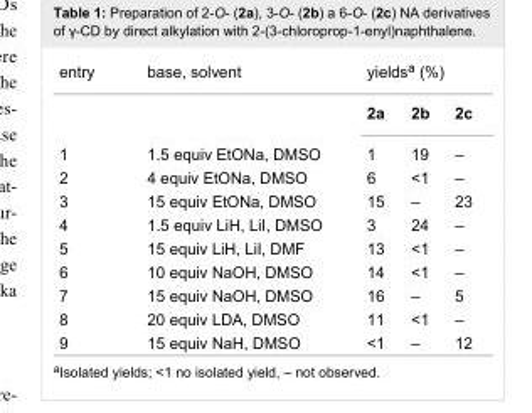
<table><tbody><tr><td rowspan="2">entry</td><td>base, solvent</td><td colspan="3">yields<sup>a</sup> (%)</td></tr><tr><td></td><td>2a</td><td>2b</td><td>2c</td></tr><tr><td>1</td><td>1.5 equiv EtONa, DMSO</td><td>1</td><td>19</td><td>–</td></tr><tr><td>2</td><td>4 equiv EtONa, DMSO</td><td>6</td><td>&lt;1</td><td>–</td></tr><tr><td>3</td><td>15 equiv EtONa, DMSO</td><td>15</td><td>–</td><td>23</td></tr><tr><td>4</td><td>1.5 equiv LiH, LiI, DMSO</td><td>3</td><td>24</td><td>–</td></tr><tr><td>5</td><td>15 equiv LiH, LiI, DMF</td><td>13</td><td>&lt;1</td><td>–</td></tr><tr><td>6</td><td>10 equiv NaOH, DMSO</td><td>14</td><td>&lt;1</td><td>–</td></tr><tr><td>7</td><td>15 equiv NaOH, DMSO</td><td>16</td><td>–</td><td>5</td></tr><tr><td>8</td><td>20 equiv LDA, DMSO</td><td>11</td><td>&lt;1</td><td>–</td></tr><tr><td>9</td><td>15 equiv NaH, DMSO</td><td>&lt;1</td><td>–</td><td>12</td></tr></tbody></table>